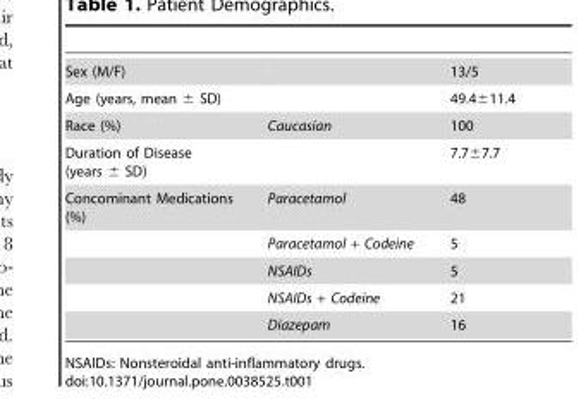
<table><tbody><tr><td>Sex (M/F)</td><td></td><td>13/5</td></tr><tr><td>Age (years, mean ± SD)</td><td></td><td>49.4±11.4</td></tr><tr><td>Race (%)</td><td>Caucasian</td><td>100</td></tr><tr><td>Duration of Disease (years ± SD)</td><td></td><td>7.7±7.7</td></tr><tr><td rowspan="5">Concominant Medications (%)</td><td>Paracetamol</td><td>48</td></tr><tr><td>Paracetamol + Codeine</td><td>5</td></tr><tr><td>NSAIDs</td><td>5</td></tr><tr><td>NSAIDs + Codeine</td><td>21</td></tr><tr><td>Diazepam</td><td>16</td></tr></tbody></table>